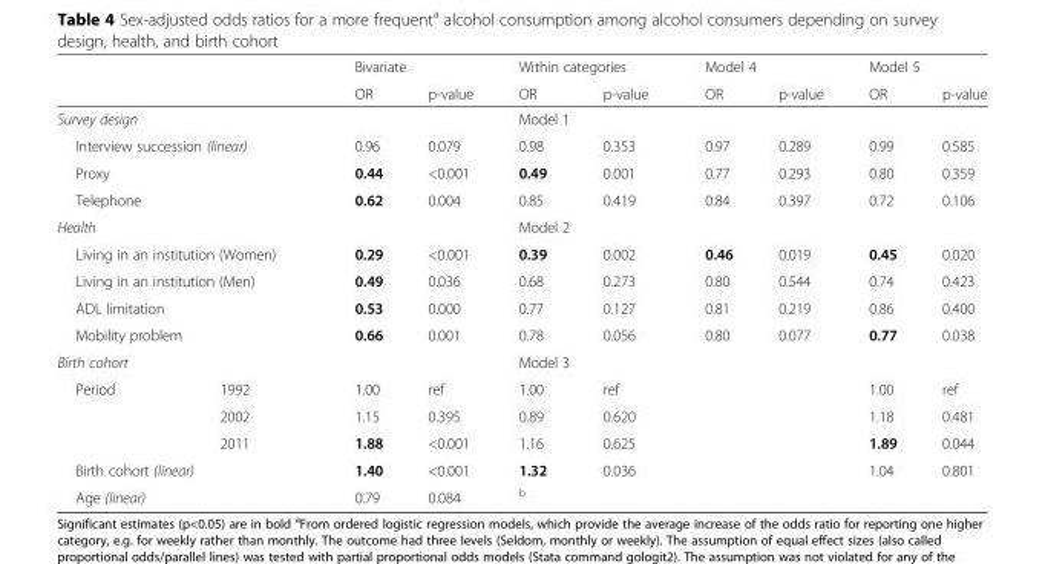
<table><thead><tr><td></td><td></td><td colspan="2">Bivariate</td><td colspan="2">Within categories</td><td colspan="2">Model 4</td><td colspan="2">Model 5</td></tr><tr><td colspan="2"></td><td>OR</td><td>p-value</td><td>OR</td><td>p-value</td><td>OR</td><td>p-value</td><td>OR</td><td>p-value</td></tr></thead><tbody><tr><td colspan="2">Survey design</td><td></td><td></td><td colspan="2">Model 1</td><td></td><td></td><td></td><td></td></tr><tr><td colspan="2">Interview succession (linear)</td><td>0.96</td><td>0.079</td><td>0.98</td><td>0.353</td><td>0.97</td><td>0.289</td><td>0.99</td><td>0.585</td></tr><tr><td colspan="2">Proxy</td><td>0.44</td><td>&lt;0.001</td><td>0.49</td><td>0.001</td><td>0.77</td><td>0.293</td><td>0.80</td><td>0.359</td></tr><tr><td colspan="2">Telephone</td><td>0.62</td><td>0.004</td><td>0.85</td><td>0.419</td><td>0.84</td><td>0.397</td><td>0.72</td><td>0.106</td></tr><tr><td colspan="2">Health</td><td></td><td></td><td colspan="2">Model 2</td><td></td><td></td><td></td><td></td></tr><tr><td colspan="2">Living in an institution (Women)</td><td>0.29</td><td>&lt;0.001</td><td>0.39</td><td>0.002</td><td>0.46</td><td>0.019</td><td>0.45</td><td>0.020</td></tr><tr><td colspan="2">Living in an institution (Men)</td><td>0.49</td><td>0.036</td><td>0.68</td><td>0.273</td><td>0.80</td><td>0.544</td><td>0.74</td><td>0.423</td></tr><tr><td colspan="2">ADL limitation</td><td>0.53</td><td>0.000</td><td>0.77</td><td>0.127</td><td>0.81</td><td>0.219</td><td>0.86</td><td>0.400</td></tr><tr><td colspan="2">Mobility problem</td><td>0.66</td><td>0.001</td><td>0.78</td><td>0.056</td><td>0.80</td><td>0.077</td><td>0.77</td><td>0.038</td></tr><tr><td colspan="2">Birth cohort</td><td></td><td></td><td colspan="2">Model 3</td><td></td><td></td><td></td><td></td></tr><tr><td rowspan="3">Period</td><td>1992</td><td>1.00</td><td>ref</td><td>1.00</td><td>ref</td><td></td><td></td><td>1.00</td><td>ref</td></tr><tr><td>2002</td><td>1.15</td><td>0.395</td><td>0.89</td><td>0.620</td><td></td><td></td><td>1.18</td><td>0.481</td></tr><tr><td>2011</td><td>1.88</td><td>&lt;0.001</td><td>1.16</td><td>0.625</td><td></td><td></td><td>1.89</td><td>0.044</td></tr><tr><td colspan="2">Birth cohort (linear)</td><td>1.40</td><td>&lt;0.001</td><td>1.32</td><td>0.036</td><td></td><td></td><td>1.04</td><td>0.801</td></tr><tr><td colspan="2">Age (linear)</td><td>0.79</td><td>0.084</td><td><sup>b</sup></td><td></td><td></td><td></td><td></td><td></td></tr></tbody></table>